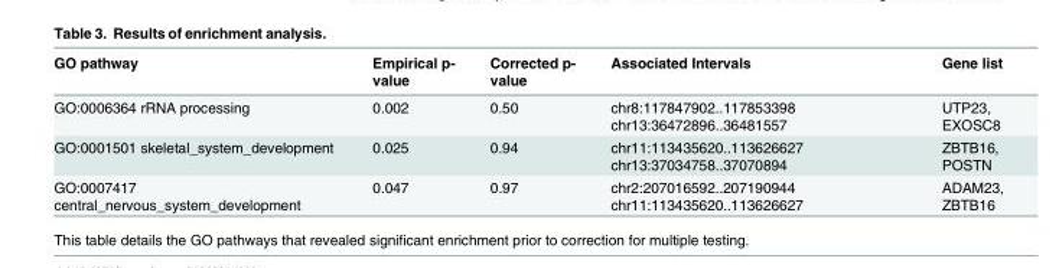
<table><thead><tr><td>GO pathway</td><td>Empirical p- value</td><td>Corrected p- value</td><td>Associated Intervals</td><td>Gene list</td></tr></thead><tbody><tr><td>GO:0006364 rRNA processing</td><td>0.002</td><td>0.50</td><td>chr8:117847902..117853398 chr13:36472896..36481557</td><td>UTP23, EXOSC8</td></tr><tr><td>GO:0001501 skeletal_system_development</td><td>0.025</td><td>0.94</td><td>chr11:113435620..113626627 chr13:37034758..37070894</td><td>ZBTB16, POSTN</td></tr><tr><td>GO:0007417 central_nervous_system_development</td><td>0.047</td><td>0.97</td><td>chr2:207016592..207190944 chr11:113435620..113626627</td><td>ADAM23, ZBTB16</td></tr></tbody></table>